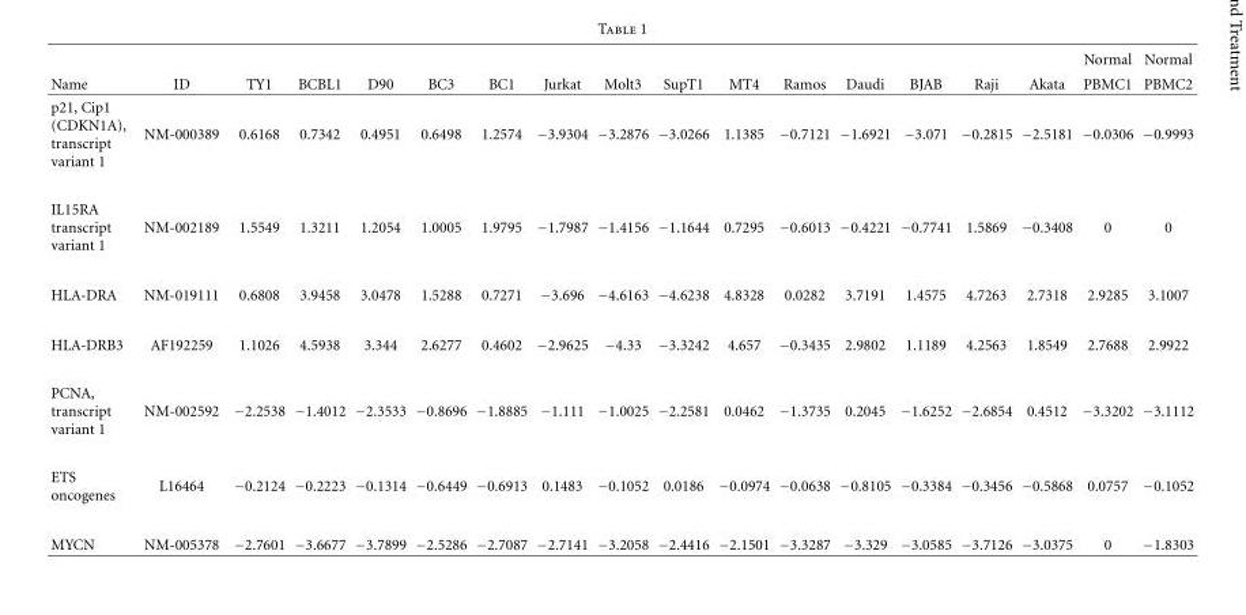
<table><thead><tr><td rowspan="2">Name</td><td rowspan="2">ID</td><td rowspan="2">TY1</td><td rowspan="2">BCBL1</td><td rowspan="2">D90</td><td rowspan="2">BC3</td><td rowspan="2">BC1</td><td rowspan="2">Jurkat</td><td rowspan="2">Molt3</td><td rowspan="2">SupT1</td><td rowspan="2">MT4</td><td rowspan="2">Ramos</td><td rowspan="2">Daudi</td><td rowspan="2">BJAB</td><td rowspan="2">Raji</td><td rowspan="2">Akata</td><td rowspan="2">Normal PBMC1</td><td rowspan="2">Normal PBMC2</td></tr><tr></tr></thead><tbody><tr><td>p21, Cip1 (CDKN1A), transcript variant 1</td><td>NM-000389</td><td>0.6168</td><td>0.7342</td><td>0.4951</td><td>0.6498</td><td>1.2574</td><td>−3.9304</td><td>−3.2876</td><td>−3.0266</td><td>1.1385</td><td>−0.7121</td><td>−1.6921</td><td>−3.071</td><td>−0.2815</td><td>−2.5181</td><td>−0.0306</td><td>−0.9993</td></tr><tr><td>IL15RA transcript variant 1</td><td>NM-002189</td><td>1.5549</td><td>1.3211</td><td>1.2054</td><td>1.0005</td><td>1.9795</td><td>−1.7987</td><td>−1.4156</td><td>−1.1644</td><td>0.7295</td><td>−0.6013</td><td>−0.4221</td><td>−0.7741</td><td>1.5869</td><td>−0.3408</td><td>0</td><td>0</td></tr><tr><td>HLA-DRA</td><td>NM-019111</td><td>0.6808</td><td>3.9458</td><td>3.0478</td><td>1.5288</td><td>0.7271</td><td>−3.696</td><td>−4.6163</td><td>−4.6238</td><td>4.8328</td><td>0.0282</td><td>3.7191</td><td>1.4575</td><td>4.7263</td><td>2.7318</td><td>2.9285</td><td>3.1007</td></tr><tr><td>HLA-DRB3</td><td>AF192259</td><td>1.1026</td><td>4.5938</td><td>3.344</td><td>2.6277</td><td>0.4602</td><td>−2.9625</td><td>−4.33</td><td>−3.3242</td><td>4.657</td><td>−0.3435</td><td>2.9802</td><td>1.1189</td><td>4.2563</td><td>1.8549</td><td>2.7688</td><td>2.9922</td></tr><tr><td>PCNA, transcript variant 1</td><td>NM-002592</td><td>−2.2538</td><td>−1.4012</td><td>−2.3533</td><td>−0.8696</td><td>−1.8885</td><td>−1.111</td><td>−1.0025</td><td>−2.2581</td><td>0.0462</td><td>−1.3735</td><td>0.2045</td><td>−1.6252</td><td>−2.6854</td><td>0.4512</td><td>−3.3202</td><td>−3.1112</td></tr><tr><td>ETS oncogenes</td><td>L16464</td><td>−0.2124</td><td>−0.2223</td><td>−0.1314</td><td>−0.6449</td><td>−0.6913</td><td>0.1483</td><td>−0.1052</td><td>0.0186</td><td>−0.0974</td><td>−0.0638</td><td>−0.8105</td><td>−0.3384</td><td>−0.3456</td><td>−0.5868</td><td>0.0757</td><td>−0.1052</td></tr><tr><td>MYCN</td><td>NM-005378</td><td>−2.7601</td><td>−3.6677</td><td>−3.7899</td><td>−2.5286</td><td>−2.7087</td><td>−2.7141</td><td>−3.2058</td><td>−2.4416</td><td>−2.1501</td><td>−3.3287</td><td>−3.329</td><td>−3.0585</td><td>−3.7126</td><td>−3.0375</td><td>0</td><td>−1.8303</td></tr></tbody></table>